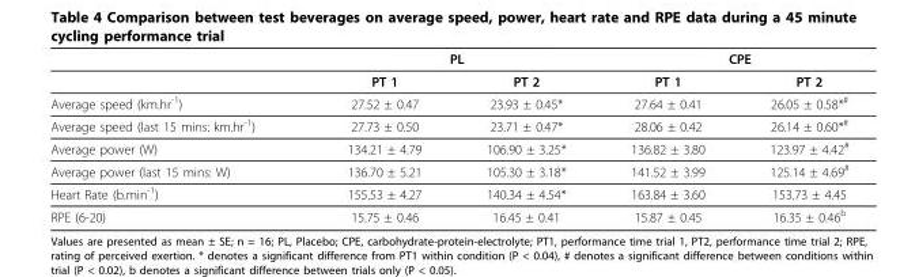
<table><thead><tr><td rowspan="2"></td><td colspan="2">PL</td><td colspan="2">CPE</td></tr><tr><td>PT 1</td><td>PT 2</td><td>PT 1</td><td>PT 2</td></tr></thead><tbody><tr><td>Average speed (km.hr<sup>-1</sup>)</td><td>27.52 ± 0.47</td><td>23.93 ± 0.45*</td><td>27.64 ± 0.41</td><td>26.05 ± 0.58*<sup>#</sup></td></tr><tr><td>Average speed (last 15 mins: km.hr<sup>-1</sup>)</td><td>27.73 ± 0.50</td><td>23.71 ± 0.47*</td><td>28.06 ± 0.42</td><td>26.14 ± 0.60*<sup>#</sup></td></tr><tr><td>Average power (W)</td><td>134.21 ± 4.79</td><td>106.90 ± 3.25*</td><td>136.82 ± 3.80</td><td>123.97 ± 4.42<sup>#</sup></td></tr><tr><td>Average power (last 15 mins: W)</td><td>136.70 ± 5.21</td><td>105.30 ± 3.18*</td><td>141.52 ± 3.99</td><td>125.14 ± 4.69<sup>#</sup></td></tr><tr><td>Heart Rate (b.min<sup>-1</sup>)</td><td>155.53 ± 4.27</td><td>140.34 ± 4.54*</td><td>163.84 ± 3.60</td><td>153.73 ± 4.45</td></tr><tr><td>RPE (6-20)</td><td>15.75 ± 0.46</td><td>16.45 ± 0.41</td><td>15.87 ± 0.45</td><td>16.35 ± 0.46<sup>b</sup></td></tr></tbody></table>